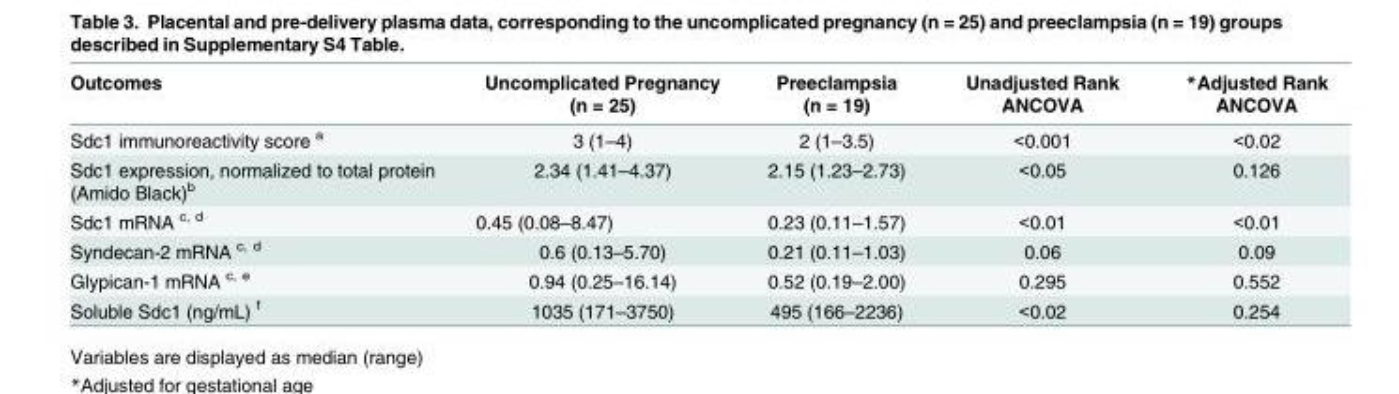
<table><thead><tr><td>Outcomes</td><td>Uncomplicated Pregnancy (n = 25)</td><td>Preeclampsia (n = 19)</td><td>Unadjusted Rank ANCOVA</td><td>*Adjusted Rank ANCOVA</td></tr></thead><tbody><tr><td>Sdc1 immunoreactivity score <sup>a</sup></td><td>3 (1–4)</td><td>2 (1–3.5)</td><td>&lt;0.001</td><td>&lt;0.02</td></tr><tr><td>Sdc1 expression, normalized to total protein (Amido Black)<sup>b</sup></td><td>2.34 (1.41–4.37)</td><td>2.15 (1.23–2.73)</td><td>&lt;0.05</td><td>0.126</td></tr><tr><td>Sdc1 mRNA <sup>c, d</sup></td><td>0.45 (0.08–8.47)</td><td>0.23 (0.11–1.57)</td><td>&lt;0.01</td><td>&lt;0.01</td></tr><tr><td>Syndecan-2 mRNA <sup>c, d</sup></td><td>0.6 (0.13–5.70)</td><td>0.21 (0.11–1.03)</td><td>0.06</td><td>0.09</td></tr><tr><td>Glypican-1 mRNA <sup>c, e</sup></td><td>0.94 (0.25–16.14)</td><td>0.52 (0.19–2.00)</td><td>0.295</td><td>0.552</td></tr><tr><td>Soluble Sdc1 (ng/mL) <sup>f</sup></td><td>1035 (171–3750)</td><td>495 (166–2236)</td><td>&lt;0.02</td><td>0.254</td></tr></tbody></table>